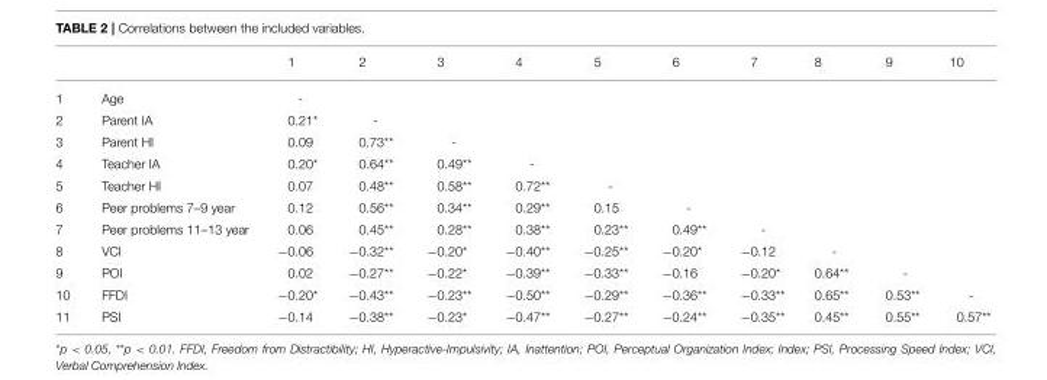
<table><thead><tr><td></td><td></td><td>1</td><td>2</td><td>3</td><td>4</td><td>5</td><td>6</td><td>7</td><td>8</td><td>9</td><td>10</td></tr></thead><tbody><tr><td>1</td><td>Age</td><td>-</td><td></td><td></td><td></td><td></td><td></td><td></td><td></td><td></td><td></td></tr><tr><td>2</td><td>Parent IA</td><td>0.21*</td><td>-</td><td></td><td></td><td></td><td></td><td></td><td></td><td></td><td></td></tr><tr><td>3</td><td>Parent HI</td><td>0.09</td><td>0.73**</td><td>-</td><td></td><td></td><td></td><td></td><td></td><td></td><td></td></tr><tr><td>4</td><td>Teacher IA</td><td>0.20*</td><td>0.64**</td><td>0.49**</td><td>-</td><td></td><td></td><td></td><td></td><td></td><td></td></tr><tr><td>5</td><td>Teacher HI</td><td>0.07</td><td>0.48**</td><td>0.58**</td><td>0.72**</td><td>-</td><td></td><td></td><td></td><td></td><td></td></tr><tr><td>6</td><td>Peer problems 7–9 year</td><td>0.12</td><td>0.56**</td><td>0.34**</td><td>0.29**</td><td>0.15</td><td>-</td><td></td><td></td><td></td><td></td></tr><tr><td>7</td><td>Peer problems 11–13 year</td><td>0.06</td><td>0.45**</td><td>0.28**</td><td>0.38**</td><td>0.23**</td><td>0.49**</td><td>-</td><td></td><td></td><td></td></tr><tr><td>8</td><td>VCI</td><td>−0.06</td><td>−0.32**</td><td>−0.20*</td><td>−0.40**</td><td>−0.25**</td><td>−0.20*</td><td>−0.12</td><td>-</td><td></td><td></td></tr><tr><td>9</td><td>POI</td><td>0.02</td><td>−0.27**</td><td>−0.22*</td><td>−0.39**</td><td>−0.33**</td><td>−0.16</td><td>−0.20*</td><td>0.64**</td><td>-</td><td></td></tr><tr><td>10</td><td>FFDI</td><td>−0.20*</td><td>−0.43**</td><td>−0.23**</td><td>−0.50**</td><td>−0.29**</td><td>−0.36**</td><td>−0.33**</td><td>0.65**</td><td>0.53**</td><td>-</td></tr><tr><td>11</td><td>PSI</td><td>−0.14</td><td>−0.38**</td><td>−0.23*</td><td>−0.47**</td><td>−0.27**</td><td>−0.24**</td><td>−0.35**</td><td>0.45**</td><td>0.55**</td><td>0.57**</td></tr></tbody></table>